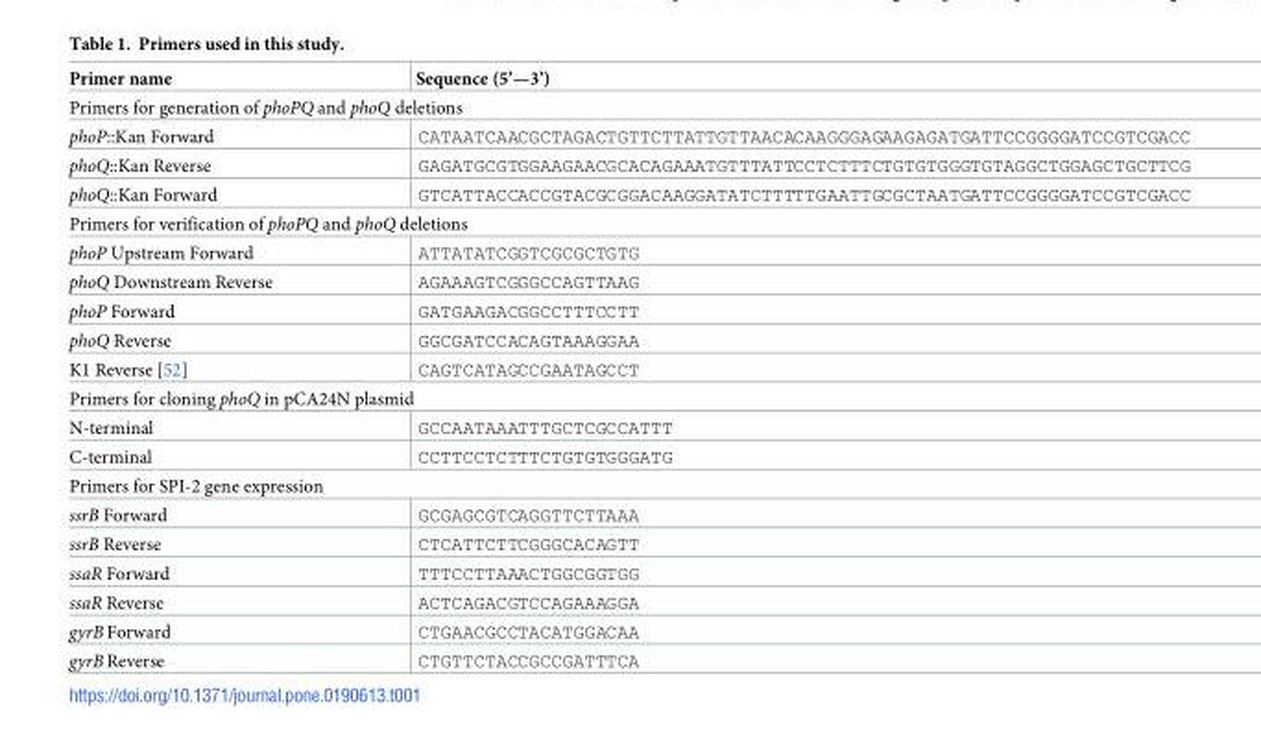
<table><thead><tr><td>Primer name</td><td>Sequence (5’—3’)</td></tr></thead><tbody><tr><td colspan="2">Primers for generation of phoPQ and phoQ deletions</td></tr><tr><td>phoP::Kan Forward</td><td>CATAATCAACGCTAGACTGTTCTTATTGTTAACACAAGGGAGAAGAGATGATTCCGGGGATCCGTCGACC</td></tr><tr><td>phoQ::Kan Reverse</td><td>GAGATGCGTGGAAGAACGCACAGAAATGTTTATTCCTCTTTCTGTGTGGGTGTAGGCTGGAGCTGCTTCG</td></tr><tr><td>phoQ::Kan Forward</td><td>GTCATTACCACCGTACGCGGACAAGGATATCTTTTTGAATTGCGCTAATGATTCCGGGGATCCGTCGACC</td></tr><tr><td colspan="2">Primers for verification of phoPQ and phoQ deletions</td></tr><tr><td>phoP Upstream Forward</td><td>ATTATATCGGTCGCGCTGTG</td></tr><tr><td>phoQ Downstream Reverse</td><td>AGAAAGTCGGGCCAGTTAAG</td></tr><tr><td>phoP Forward</td><td>GATGAAGACGGCCTTTCCTT</td></tr><tr><td>phoQ Reverse</td><td>GGCGATCCACAGTAAAGGAA</td></tr><tr><td>K1 Reverse [52]</td><td>CAGTCATAGCCGAATAGCCT</td></tr><tr><td colspan="2">Primers for cloning phoQ in pCA24N plasmid</td></tr><tr><td>N-terminal</td><td>GCCAATAAATTTGCTCGCCATTT</td></tr><tr><td>C-terminal</td><td>CCTTCCTCTTTCTGTGTGGGATG</td></tr><tr><td colspan="2">Primers for SPI-2 gene expression</td></tr><tr><td>ssrB Forward</td><td>GCGAGCGTCAGGTTCTTAAA</td></tr><tr><td>ssrB Reverse</td><td>CTCATTCTTCGGGCACAGTT</td></tr><tr><td>ssaR Forward</td><td>TTTCCTTAAACTGGCGGTGG</td></tr><tr><td>ssaR Reverse</td><td>ACTCAGACGTCCAGAAAGGA</td></tr><tr><td>gyrB Forward</td><td>CTGAACGCCTACATGGACAA</td></tr><tr><td>gyrB Reverse</td><td>CTGTTCTACCGCCGATTTCA</td></tr></tbody></table>